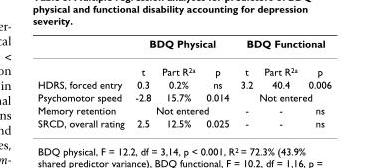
<table><thead><tr><td rowspan="2"></td><td colspan="3">BDQ Physical</td><td colspan="3">BDQ Functional</td></tr><tr><td>t</td><td>Part R<sup>2a</sup></td><td>p</td><td>t</td><td>Part R<sup>2a</sup></td><td>p</td></tr></thead><tbody><tr><td>HDRS, forced entry</td><td>0.3</td><td>0.2%</td><td>ns</td><td>3.2</td><td>40.4</td><td>0.006</td></tr><tr><td>Psychomotor speed</td><td>-2.8</td><td>15.7%</td><td>0.014</td><td colspan="3">Not entered</td></tr><tr><td>Memory retention</td><td colspan="3">Not entered</td><td>-</td><td>-</td><td>ns</td></tr><tr><td>SRCD, overall rating</td><td>2.5</td><td>12.5%</td><td>0.025</td><td>-</td><td>-</td><td>ns</td></tr></tbody></table>